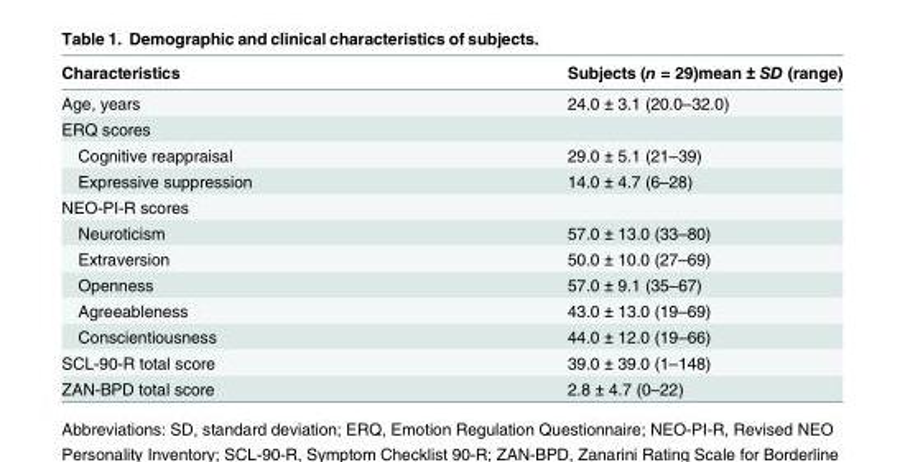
<table><thead><tr><td>Characteristics</td><td>Subjects (n = 29)mean ± SD (range)</td></tr></thead><tbody><tr><td>Age, years</td><td>24.0 ± 3.1 (20.0–32.0)</td></tr><tr><td colspan="2">ERQ scores</td></tr><tr><td>Cognitive reappraisal</td><td>29.0 ± 5.1 (21–39)</td></tr><tr><td>Expressive suppression</td><td>14.0 ± 4.7 (6–28)</td></tr><tr><td colspan="2">NEO-PI-R scores</td></tr><tr><td>Neuroticism</td><td>57.0 ± 13.0 (33–80)</td></tr><tr><td>Extraversion</td><td>50.0 ± 10.0 (27–69)</td></tr><tr><td>Openness</td><td>57.0 ± 9.1 (35–67)</td></tr><tr><td>Agreeableness</td><td>43.0 ± 13.0 (19–69)</td></tr><tr><td>Conscientiousness</td><td>44.0 ± 12.0 (19–66)</td></tr><tr><td>SCL-90-R total score</td><td>39.0 ± 39.0 (1–148)</td></tr><tr><td>ZAN-BPD total score</td><td>2.8 ± 4.7 (0–22)</td></tr></tbody></table>